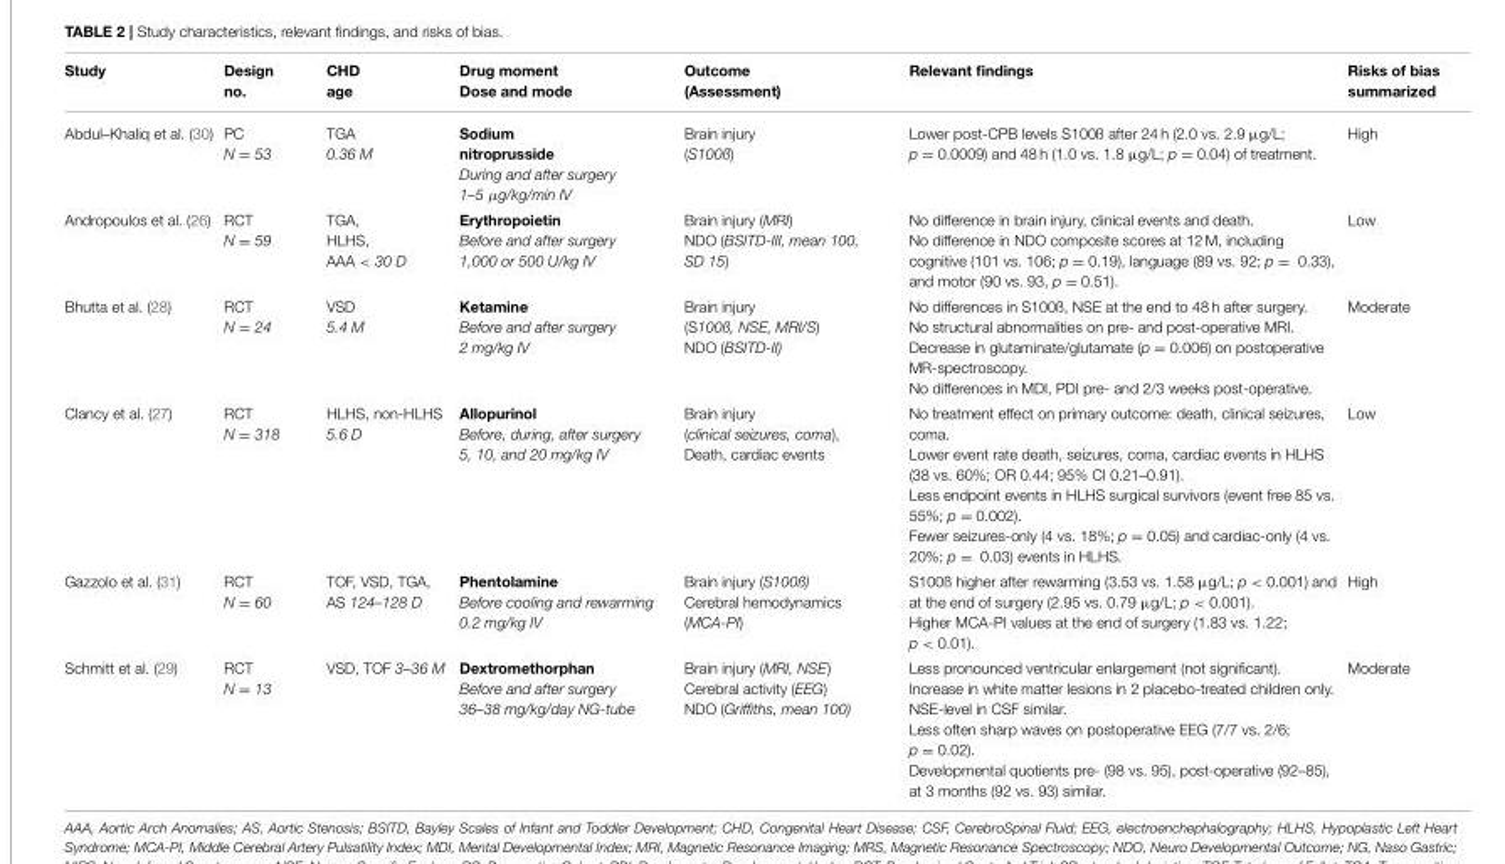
<table><thead><tr><td>Study</td><td>Design no.</td><td>CHD age</td><td>Drug moment Dose and mode</td><td>Outcome (Assessment)</td><td>Relevant findings</td><td>Risks of bias summarized</td></tr></thead><tbody><tr><td>Abdul–Khaliq et al. (30)</td><td>PC N = 53</td><td>TGA 0.36 M</td><td>Sodium nitroprusside During and after surgery 1–5 µg/kg/min IV</td><td>Brain injury (S100ß)</td><td>Lower post-CPB levels S100ß after 24 h (2.0 vs. 2.9 µg/L; p = 0.0009) and 48 h (1.0 vs. 1.8 µg/L; p = 0.04) of treatment.</td><td>High</td></tr><tr><td>Andropoulos et al. (26)</td><td>RCT N = 59</td><td>TGA, HLHS, AAA &lt; 30 D</td><td>Erythropoietin Before and after surgery 1,000 or 500 U/kg IV</td><td>Brain injury (MRI) NDO (BSITD-III, mean 100, SD 15)</td><td>No difference in brain injury, clinical events and death. No difference in NDO composite scores at 12 M, including cognitive (101 vs. 106; p = 0.19), language (89 vs. 92; p = 0.33), and motor (90 vs. 93, p = 0.51).</td><td>Low</td></tr><tr><td>Bhutta et al. (28)</td><td>RCT N = 24</td><td>VSD 5.4 M</td><td>Ketamine Before and after surgery 2 mg/kg IV</td><td>Brain injury (S100ß, NSE, MRI/S) NDO (BSITD-II)</td><td>No differences in S100ß, NSE at the end to 48 h after surgery. No structural abnormalities on pre- and post-operative MRI. Decrease in glutaminate/glutamate (p = 0.006) on postoperative MR-spectroscopy. No differences in MDI, PDI pre- and 2/3 weeks post-operative.</td><td>Moderate</td></tr><tr><td>Clancy et al. (27)</td><td>RCT N = 318</td><td>HLHS, non-HLHS 5.6 D</td><td>Allopurinol Before, during, after surgery 5, 10, and 20 mg/kg IV</td><td>Brain injury (clinical seizures, coma), Death, cardiac events</td><td>No treatment effect on primary outcome: death, clinical seizures, coma. Lower event rate death, seizures, coma, cardiac events in HLHS (38 vs. 60%; OR 0.44; 95% CI 0.21–0.91). Less endpoint events in HLHS surgical survivors (event free 85 vs. 55%; p = 0.002). Fewer seizures-only (4 vs. 18%; p = 0.05) and cardiac-only (4 vs. 20%; p = 0.03) events in HLHS.</td><td>Low</td></tr><tr><td>Gazzolo et al. (31)</td><td>RCT N = 60</td><td>TOF, VSD, TGA, AS 124–128 D</td><td>Phentolamine Before cooling and rewarming 0.2 mg/kg IV</td><td>Brain injury (S100ß) Cerebral hemodynamics (MCA-PI)</td><td>S100ß higher after rewarming (3.53 vs. 1.58 µg/L; p &lt; 0.001) and at the end of surgery (2.95 vs. 0.79 µg/L; p &lt; 0.001). Higher MCA-PI values at the end of surgery (1.83 vs. 1.22; p &lt; 0.01).</td><td>High</td></tr><tr><td>Schmitt et al. (29)</td><td>RCT N = 13</td><td>VSD, TOF 3–36 M</td><td>Dextromethorphan Before and after surgery 36–38 mg/kg/day NG-tube</td><td>Brain injury (MRI, NSE) Cerebral activity (EEG) NDO (Griffiths, mean 100)</td><td>Less pronounced ventricular enlargement (not significant). Increase in white matter lesions in 2 placebo-treated children only. NSE-level in CSF similar. Less often sharp waves on postoperative EEG (7/7 vs. 2/6; p = 0.02). Developmental quotients pre- (98 vs. 95), post-operative (92–85), at 3 months (92 vs. 93) similar.</td><td>Moderate</td></tr></tbody></table>